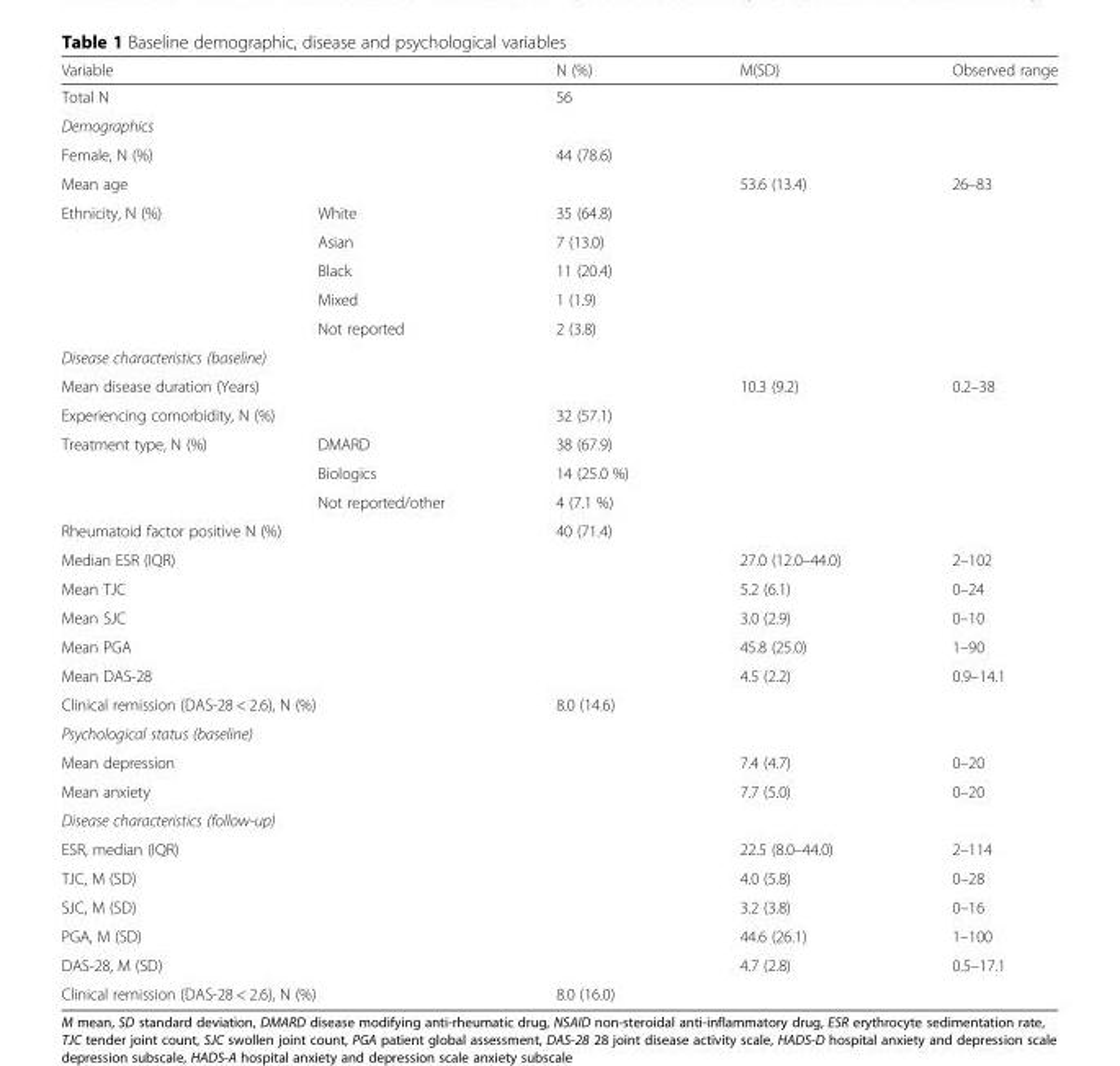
<table><thead><tr><td>Variable</td><td></td><td>N (%)</td><td>M(SD)</td><td>Observed range</td></tr></thead><tbody><tr><td>Total N</td><td></td><td>56</td><td></td><td></td></tr><tr><td colspan="5">Demographics</td></tr><tr><td>Female, N (%)</td><td></td><td>44 (78.6)</td><td></td><td></td></tr><tr><td>Mean age</td><td></td><td></td><td>53.6 (13.4)</td><td>26–83</td></tr><tr><td rowspan="5">Ethnicity, N (%)</td><td>White</td><td>35 (64.8)</td><td></td><td></td></tr><tr><td>Asian</td><td>7 (13.0)</td><td></td><td></td></tr><tr><td>Black</td><td>11 (20.4)</td><td></td><td></td></tr><tr><td>Mixed</td><td>1 (1.9)</td><td></td><td></td></tr><tr><td>Not reported</td><td>2 (3.8)</td><td></td><td></td></tr><tr><td colspan="5">Disease characteristics (baseline)</td></tr><tr><td colspan="2">Mean disease duration (Years)</td><td></td><td>10.3 (9.2)</td><td>0.2–38</td></tr><tr><td colspan="2">Experiencing comorbidity, N (%)</td><td>32 (57.1)</td><td></td><td></td></tr><tr><td rowspan="3">Treatment type, N (%)</td><td>DMARD</td><td>38 (67.9)</td><td></td><td></td></tr><tr><td>Biologics</td><td>14 (25.0 %)</td><td></td><td></td></tr><tr><td>Not reported/other</td><td>4 (7.1 %)</td><td></td><td></td></tr><tr><td colspan="2">Rheumatoid factor positive N (%)</td><td>40 (71.4)</td><td></td><td></td></tr><tr><td>Median ESR (IQR)</td><td></td><td></td><td>27.0 (12.0–44.0)</td><td>2–102</td></tr><tr><td>Mean TJC</td><td></td><td></td><td>5.2 (6.1)</td><td>0–24</td></tr><tr><td>Mean SJC</td><td></td><td></td><td>3.0 (2.9)</td><td>0–10</td></tr><tr><td>Mean PGA</td><td></td><td></td><td>45.8 (25.0)</td><td>1–90</td></tr><tr><td>Mean DAS-28</td><td></td><td></td><td>4.5 (2.2)</td><td>0.9–14.1</td></tr><tr><td colspan="2">Clinical remission (DAS-28 &lt; 2.6), N (%)</td><td>8.0 (14.6)</td><td></td><td></td></tr><tr><td colspan="5">Psychological status (baseline)</td></tr><tr><td>Mean depression</td><td></td><td></td><td>7.4 (4.7)</td><td>0–20</td></tr><tr><td>Mean anxiety</td><td></td><td></td><td>7.7 (5.0)</td><td>0–20</td></tr><tr><td colspan="5">Disease characteristics (follow-up)</td></tr><tr><td>ESR, median (IQR)</td><td></td><td></td><td>22.5 (8.0–44.0)</td><td>2–114</td></tr><tr><td>TJC, M (SD)</td><td></td><td></td><td>4.0 (5.8)</td><td>0–28</td></tr><tr><td>SJC, M (SD)</td><td></td><td></td><td>3.2 (3.8)</td><td>0–16</td></tr><tr><td>PGA, M (SD)</td><td></td><td></td><td>44.6 (26.1)</td><td>1–100</td></tr><tr><td>DAS-28, M (SD)</td><td></td><td></td><td>4.7 (2.8)</td><td>0.5–17.1</td></tr><tr><td colspan="2">Clinical remission (DAS-28 &lt; 2.6), N (%)</td><td>8.0 (16.0)</td><td></td><td></td></tr></tbody></table>